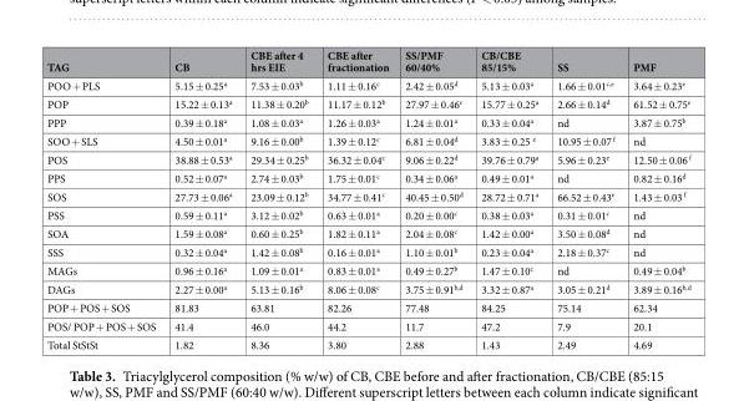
<table><thead><tr><td>TAG</td><td>CB</td><td>CBE after 4 hrs EIE</td><td>CBE after fractionation</td><td>SS/PMF 60/40%</td><td>CB/CBE 85/15%</td><td>SS</td><td>PMF</td></tr></thead><tbody><tr><td>POO + PLS</td><td>5.15 ± 0.25<sup>a</sup></td><td>7.53 ± 0.03<sup>b</sup></td><td>1.11 ± 0.16<sup>c</sup></td><td>2.42 ± 0.05<sup>d</sup></td><td>5.13 ± 0.03<sup>a</sup></td><td>1.66 ± 0.01<sup>c,e</sup></td><td>3.64 ± 0.23<sup>e</sup></td></tr><tr><td>POP</td><td>15.22 ± 0.13<sup>a</sup></td><td>11.38 ± 0.20<sup>b</sup></td><td>11.17 ± 0.12<sup>b</sup></td><td>27.97 ± 0.46<sup>c</sup></td><td>15.77 ± 0.25<sup>a</sup></td><td>2.66 ± 0.14<sup>d</sup></td><td>61.52 ± 0.75<sup>e</sup></td></tr><tr><td>PPP</td><td>0.39 ± 0.18<sup>a</sup></td><td>1.08 ± 0.03<sup>a</sup></td><td>1.26 ± 0.03<sup>a</sup></td><td>1.24 ± 0.01<sup>a</sup></td><td>0.33 ± 0.04<sup>a</sup></td><td>nd</td><td>3.87 ± 0.75<sup>b</sup></td></tr><tr><td>SOO + SLS</td><td>4.50 ± 0.01<sup>a</sup></td><td>9.16 ± 0.00<sup>b</sup></td><td>1.39 ± 0.12<sup>c</sup></td><td>6.81 ± 0.04<sup>d</sup></td><td>3.83 ± 0.25 <sup>e</sup></td><td>10.95 ± 0.07 <sup>f</sup></td><td>nd</td></tr><tr><td>POS</td><td>38.88 ± 0.53<sup>a</sup></td><td>29.34 ± 0.25<sup>b</sup></td><td>36.32 ± 0.04<sup>c</sup></td><td>9.06 ± 0.22<sup>d</sup></td><td>39.76 ± 0.79<sup>a</sup></td><td>5.96 ± 0.23<sup>e</sup></td><td>12.50 ± 0.06 <sup>f</sup></td></tr><tr><td>PPS</td><td>0.52 ± 0.07<sup>a</sup></td><td>2.74 ± 0.03<sup>b</sup></td><td>1.75 ± 0.01<sup>c</sup></td><td>0.34 ± 0.06<sup>a</sup></td><td>0.49 ± 0.01<sup>a</sup></td><td>nd</td><td>0.82 ± 0.16<sup>d</sup></td></tr><tr><td>SOS</td><td>27.73 ± 0.06<sup>a</sup></td><td>23.09 ± 0.12<sup>b</sup></td><td>34.77 ± 0.41<sup>c</sup></td><td>40.45 ± 0.50<sup>d</sup></td><td>28.72 ± 0.71<sup>a</sup></td><td>66.52 ± 0.43<sup>e</sup></td><td>1.43 ± 0.03 <sup>f</sup></td></tr><tr><td>PSS</td><td>0.59 ± 0.11<sup>a</sup></td><td>3.12 ± 0.02<sup>b</sup></td><td>0.63 ± 0.01<sup>a</sup></td><td>0.20 ± 0.00<sup>c</sup></td><td>0.38 ± 0.03<sup>a</sup></td><td>0.31 ± 0.01<sup>c</sup></td><td>nd</td></tr><tr><td>SOA</td><td>1.59 ± 0.08<sup>a</sup></td><td>0.60 ± 0.25<sup>b</sup></td><td>1.82 ± 0.11<sup>a</sup></td><td>2.04 ± 0.08<sup>c</sup></td><td>1.42 ± 0.00<sup>a</sup></td><td>3.50 ± 0.08<sup>d</sup></td><td>nd</td></tr><tr><td>SSS</td><td>0.32 ± 0.04<sup>a</sup></td><td>1.42 ± 0.08<sup>b</sup></td><td>0.16 ± 0.01<sup>a</sup></td><td>1.10 ± 0.01<sup>b</sup></td><td>0.23 ± 0.04<sup>a</sup></td><td>2.18 ± 0.37<sup>c</sup></td><td>nd</td></tr><tr><td>MAGs</td><td>0.96 ± 0.16<sup>a</sup></td><td>1.09 ± 0.01<sup>a</sup></td><td>0.83 ± 0.01<sup>a</sup></td><td>0.49 ± 0.27<sup>b</sup></td><td>1.47 ± 0.10<sup>c</sup></td><td>nd</td><td>0.49 ± 0.04<sup>b</sup></td></tr><tr><td>DAGs</td><td>2.27 ± 0.00<sup>a</sup></td><td>5.13 ± 0.16<sup>b</sup></td><td>8.06 ± 0.08<sup>c</sup></td><td>3.75 ± 0.91<sup>b,d</sup></td><td>3.32 ± 0.87<sup>a</sup></td><td>3.05 ± 0.21<sup>d</sup></td><td>3.89 ± 0.16<sup>b,d</sup></td></tr><tr><td>POP + POS + SOS</td><td>81.83</td><td>63.81</td><td>82.26</td><td>77.48</td><td>84.25</td><td>75.14</td><td>62.34</td></tr><tr><td>POS/ POP + POS + SOS</td><td>41.4</td><td>46.0</td><td>44.2</td><td>11.7</td><td>47.2</td><td>7.9</td><td>20.1</td></tr><tr><td>Total StStSt</td><td>1.82</td><td>8.36</td><td>3.80</td><td>2.88</td><td>1.43</td><td>2.49</td><td>4.69</td></tr></tbody></table>